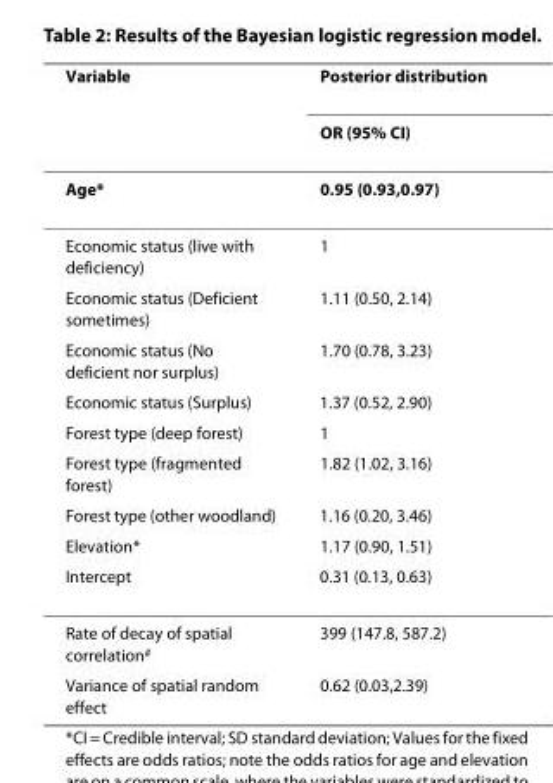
<table><thead><tr><td rowspan="2">Variable</td><td rowspan="2">Posterior distribution OR (95% CI)</td></tr><tr></tr></thead><tbody><tr><td>Age*</td><td>0.95 (0.93,0.97)</td></tr><tr><td>Economic status (live with deficiency)</td><td>1</td></tr><tr><td>Economic status (Deficient sometimes)</td><td>1.11 (0.50, 2.14)</td></tr><tr><td>Economic status (No deficient nor surplus)</td><td>1.70 (0.78, 3.23)</td></tr><tr><td>Economic status (Surplus)</td><td>1.37 (0.52, 2.90)</td></tr><tr><td>Forest type (deep forest)</td><td>1</td></tr><tr><td>Forest type (fragmented forest)</td><td>1.82 (1.02, 3.16)</td></tr><tr><td>Forest type (other woodland)</td><td>1.16 (0.20, 3.46)</td></tr><tr><td>Elevation*</td><td>1.17 (0.90, 1.51)</td></tr><tr><td>Intercept</td><td>0.31 (0.13, 0.63)</td></tr><tr><td>Rate of decay of spatial correlation<sup>#</sup></td><td>399 (147.8, 587.2)</td></tr><tr><td>Variance of spatial random effect</td><td>0.62 (0.03,2.39)</td></tr></tbody></table>